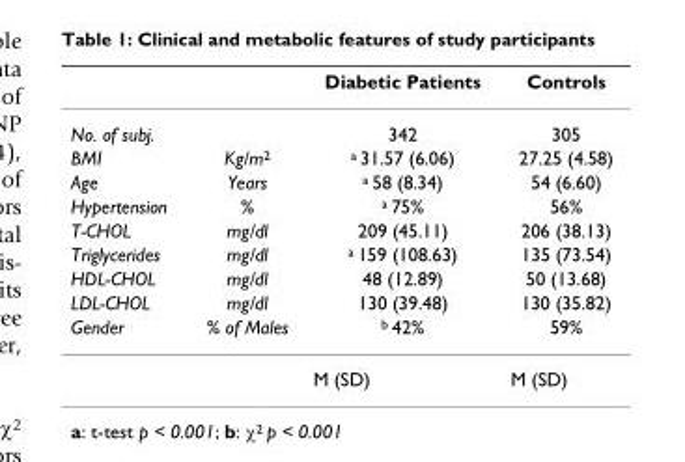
<table><thead><tr><td></td><td></td><td>Diabetic Patients</td><td>Controls</td></tr></thead><tbody><tr><td>No. of subj.</td><td></td><td>342</td><td>305</td></tr><tr><td>BMI</td><td>Kg/m<sup>2</sup></td><td><sup>a</sup> 31.57 (6.06)</td><td>27.25 (4.58)</td></tr><tr><td>Age</td><td>Years</td><td><sup>a</sup> 58 (8.34)</td><td>54 (6.60)</td></tr><tr><td>Hypertension</td><td>%</td><td><sup>a</sup> 75%</td><td>56%</td></tr><tr><td>T-CHOL</td><td>mg/dl</td><td>209 (45.11)</td><td>206 (38.13)</td></tr><tr><td>Triglycerides</td><td>mg/dl</td><td><sup>a</sup> 159 (108.63)</td><td>135 (73.54)</td></tr><tr><td>HDL-CHOL</td><td>mg/dl</td><td>48 (12.89)</td><td>50 (13.68)</td></tr><tr><td>LDL-CHOL</td><td>mg/dl</td><td>130 (39.48)</td><td>130 (35.82)</td></tr><tr><td rowspan="2">Gender</td><td>% of Males</td><td><sup>b</sup> 42%</td><td>59%</td></tr><tr><td></td><td>M (SD)</td><td>M (SD)</td></tr></tbody></table>